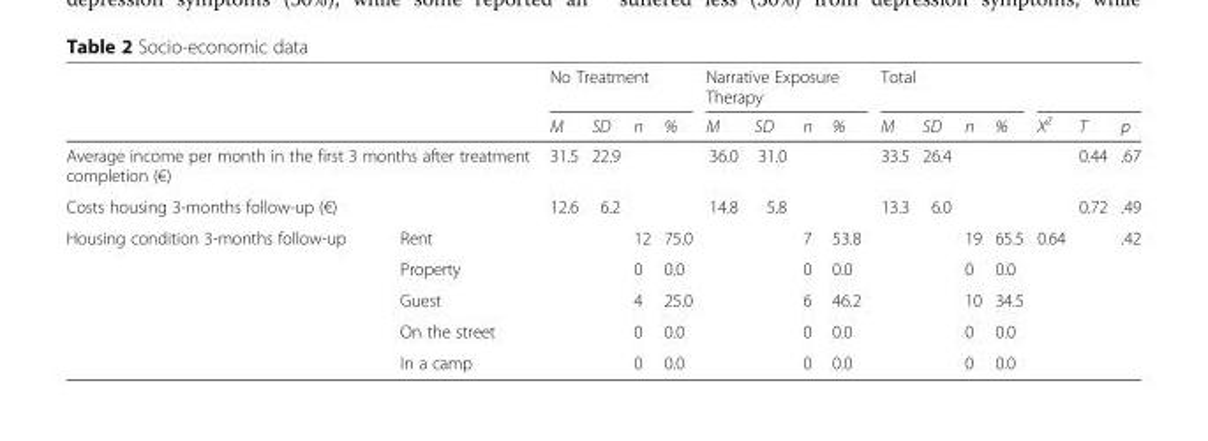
<table><thead><tr><td rowspan="2"></td><td rowspan="2"></td><td colspan="4">No Treatment</td><td colspan="4">Narrative Exposure Therapy</td><td colspan="4">Total</td><td rowspan="2">X<sup>2</sup></td><td rowspan="2">T</td><td rowspan="2">p</td></tr><tr><td>M</td><td>SD</td><td>n</td><td>%</td><td>M</td><td>SD</td><td>n</td><td>%</td><td>M</td><td>SD</td><td>n</td><td>%</td></tr></thead><tbody><tr><td colspan="2">Average income per month in the first 3 months after treatment completion (€)</td><td>31.5</td><td>22.9</td><td></td><td></td><td>36.0</td><td>31.0</td><td></td><td></td><td>33.5</td><td>26.4</td><td></td><td></td><td></td><td>0.44</td><td>.67</td></tr><tr><td colspan="2">Costs housing 3-months follow-up (€)</td><td>12.6</td><td>6.2</td><td></td><td></td><td>14.8</td><td>5.8</td><td></td><td></td><td>13.3</td><td>6.0</td><td></td><td></td><td></td><td>0.72</td><td>.49</td></tr><tr><td rowspan="5">Housing condition 3-months follow-up</td><td>Rent</td><td></td><td></td><td>12</td><td>75.0</td><td></td><td></td><td>7</td><td>53.8</td><td></td><td></td><td>19</td><td>65.5</td><td rowspan="5">0.64</td><td></td><td rowspan="5">.42</td></tr><tr><td>Property</td><td></td><td></td><td>0</td><td>0.0</td><td></td><td></td><td>0</td><td>0.0</td><td></td><td></td><td>0</td><td>0.0</td><td></td></tr><tr><td>Guest</td><td></td><td></td><td>4</td><td>25.0</td><td></td><td></td><td>6</td><td>46.2</td><td></td><td></td><td>10</td><td>34.5</td><td></td></tr><tr><td>On the street</td><td></td><td></td><td>0</td><td>0.0</td><td></td><td></td><td>0</td><td>0.0</td><td></td><td></td><td>0</td><td>0.0</td><td></td></tr><tr><td>In a camp</td><td></td><td></td><td>0</td><td>0.0</td><td></td><td></td><td>0</td><td>0.0</td><td></td><td></td><td>0</td><td>0.0</td><td></td></tr></tbody></table>